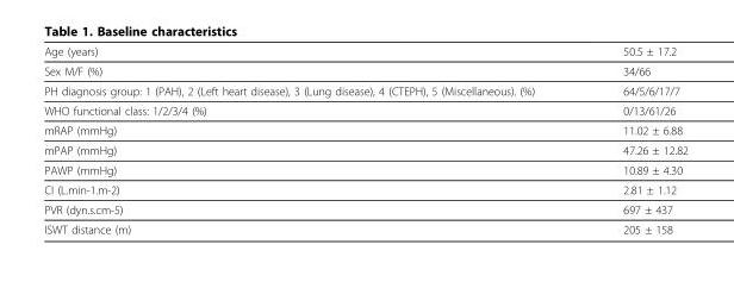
<table><tbody><tr><td>Age (years)</td><td>50.5 ± 17.2</td></tr><tr><td>Sex M/F (%)</td><td>34/66</td></tr><tr><td>PH diagnosis group: 1 (PAH), 2 (Left heart disease), 3 (Lung disease), 4 (CTEPH), 5 (Miscellaneous). (%)</td><td>64/5/6/17/7</td></tr><tr><td>WHO functional class: 1/2/3/4 (%)</td><td>0/13/61/26</td></tr><tr><td>mRAP (mmHg)</td><td>11.02 ± 6.88</td></tr><tr><td>mPAP (mmHg)</td><td>47.26 ± 12.82</td></tr><tr><td>PAWP (mmHg)</td><td>10.89 ± 4.30</td></tr><tr><td>CI (L.min-1.m-2)</td><td>2.81 ± 1.12</td></tr><tr><td>PVR (dyn.s.cm-5)</td><td>697 ± 437</td></tr><tr><td>ISWT distance (m)</td><td>205 ± 158</td></tr></tbody></table>